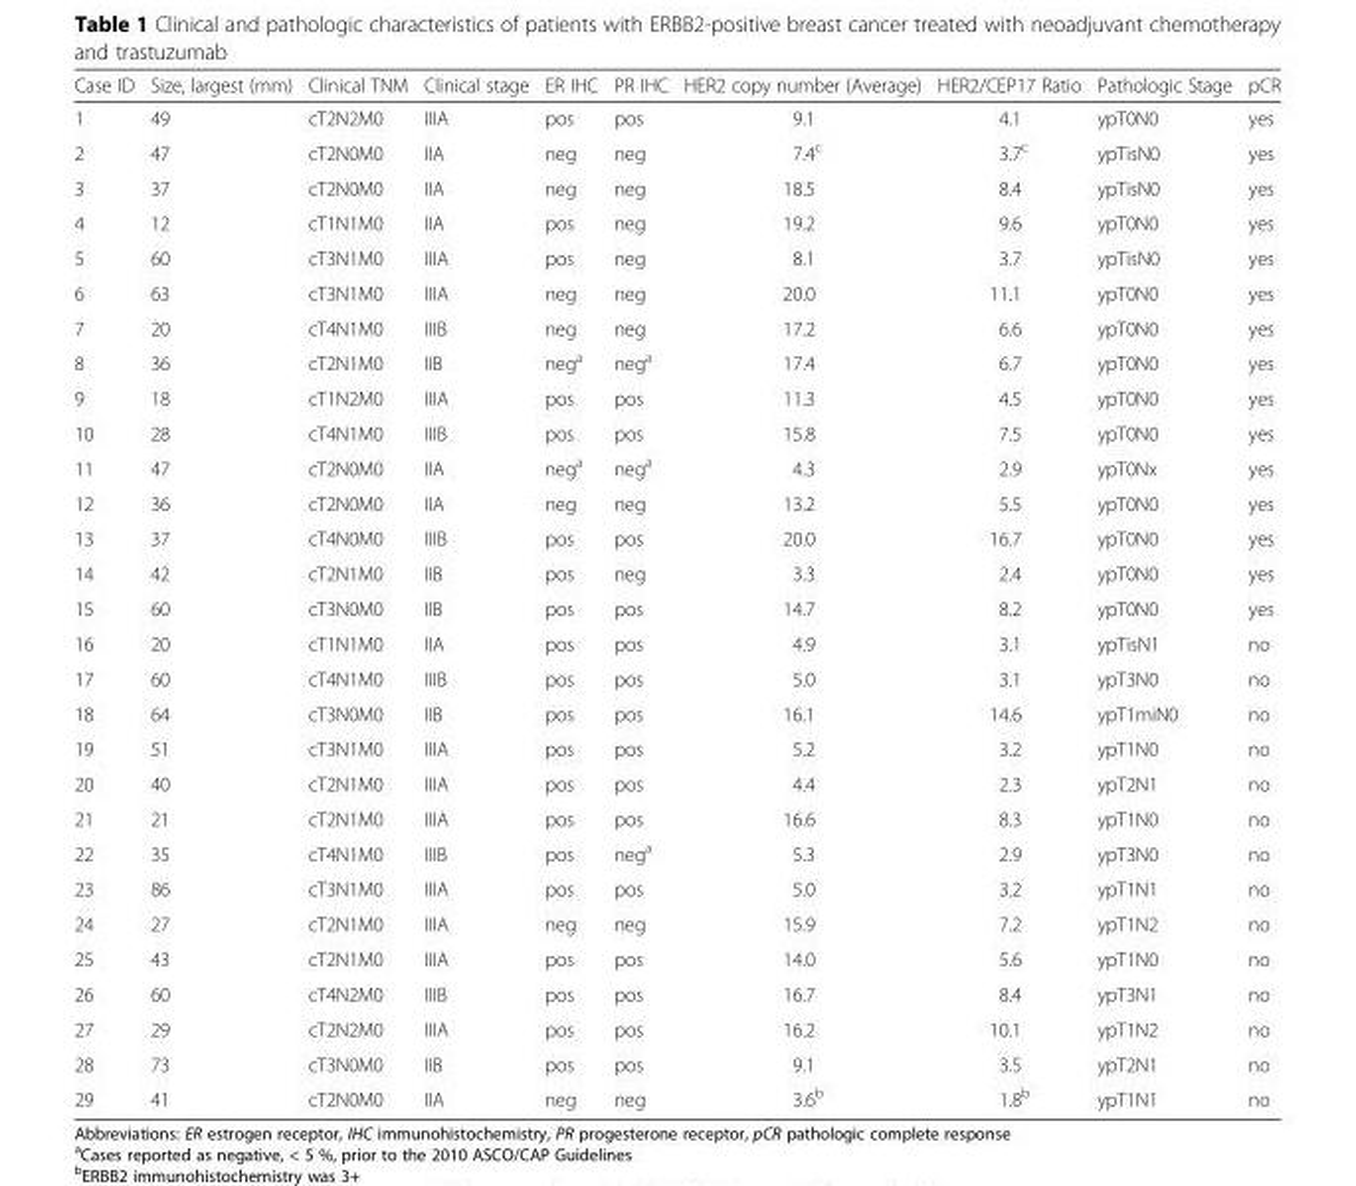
<table><thead><tr><td>Case ID</td><td>Size, largest (mm)</td><td>Clinical TNM</td><td>Clinical stage</td><td>ER IHC</td><td>PR IHC</td><td>HER2 copy number (Average)</td><td>HER2/CEP17 Ratio</td><td>Pathologic Stage</td><td>pCR</td></tr></thead><tbody><tr><td>1</td><td>49</td><td>cT2N2M0</td><td>IIIA</td><td>pos</td><td>pos</td><td>9.1</td><td>4.1</td><td>ypT0N0</td><td>yes</td></tr><tr><td>2</td><td>47</td><td>cT2N0M0</td><td>IIA</td><td>neg</td><td>neg</td><td>7.4<sup>c</sup></td><td>3.7<sup>c</sup></td><td>ypTisN0</td><td>yes</td></tr><tr><td>3</td><td>37</td><td>cT2N0M0</td><td>IIA</td><td>neg</td><td>neg</td><td>18.5</td><td>8.4</td><td>ypTisN0</td><td>yes</td></tr><tr><td>4</td><td>12</td><td>cT1N1M0</td><td>IIA</td><td>pos</td><td>neg</td><td>19.2</td><td>9.6</td><td>ypT0N0</td><td>yes</td></tr><tr><td>5</td><td>60</td><td>cT3N1M0</td><td>IIIA</td><td>pos</td><td>neg</td><td>8.1</td><td>3.7</td><td>ypTisN0</td><td>yes</td></tr><tr><td>6</td><td>63</td><td>cT3N1M0</td><td>IIIA</td><td>neg</td><td>neg</td><td>20.0</td><td>11.1</td><td>ypT0N0</td><td>yes</td></tr><tr><td>7</td><td>20</td><td>cT4N1M0</td><td>IIIB</td><td>neg</td><td>neg</td><td>17.2</td><td>6.6</td><td>ypT0N0</td><td>yes</td></tr><tr><td>8</td><td>36</td><td>cT2N1M0</td><td>IIB</td><td>neg<sup>a</sup></td><td>neg<sup>a</sup></td><td>17.4</td><td>6.7</td><td>ypT0N0</td><td>yes</td></tr><tr><td>9</td><td>18</td><td>cT1N2M0</td><td>IIIA</td><td>pos</td><td>pos</td><td>11.3</td><td>4.5</td><td>ypT0N0</td><td>yes</td></tr><tr><td>10</td><td>28</td><td>cT4N1M0</td><td>IIIB</td><td>pos</td><td>pos</td><td>15.8</td><td>7.5</td><td>ypT0N0</td><td>yes</td></tr><tr><td>11</td><td>47</td><td>cT2N0M0</td><td>IIA</td><td>neg<sup>a</sup></td><td>neg<sup>a</sup></td><td>4.3</td><td>2.9</td><td>ypT0Nx</td><td>yes</td></tr><tr><td>12</td><td>36</td><td>cT2N0M0</td><td>IIA</td><td>neg</td><td>neg</td><td>13.2</td><td>5.5</td><td>ypT0N0</td><td>yes</td></tr><tr><td>13</td><td>37</td><td>cT4N0M0</td><td>IIIB</td><td>pos</td><td>pos</td><td>20.0</td><td>16.7</td><td>ypT0N0</td><td>yes</td></tr><tr><td>14</td><td>42</td><td>cT2N1M0</td><td>IIB</td><td>pos</td><td>neg</td><td>3.3</td><td>2.4</td><td>ypT0N0</td><td>yes</td></tr><tr><td>15</td><td>60</td><td>cT3N0M0</td><td>IIB</td><td>pos</td><td>pos</td><td>14.7</td><td>8.2</td><td>ypT0N0</td><td>yes</td></tr><tr><td>16</td><td>20</td><td>cT1N1M0</td><td>IIA</td><td>pos</td><td>pos</td><td>4.9</td><td>3.1</td><td>ypTisN1</td><td>no</td></tr><tr><td>17</td><td>60</td><td>cT4N1M0</td><td>IIIB</td><td>pos</td><td>pos</td><td>5.0</td><td>3.1</td><td>ypT3N0</td><td>no</td></tr><tr><td>18</td><td>64</td><td>cT3N0M0</td><td>IIB</td><td>pos</td><td>pos</td><td>16.1</td><td>14.6</td><td>ypT1miN0</td><td>no</td></tr><tr><td>19</td><td>51</td><td>cT3N1M0</td><td>IIIA</td><td>pos</td><td>pos</td><td>5.2</td><td>3.2</td><td>ypT1N0</td><td>no</td></tr><tr><td>20</td><td>40</td><td>cT2N1M0</td><td>IIIA</td><td>pos</td><td>pos</td><td>4.4</td><td>2.3</td><td>ypT2N1</td><td>no</td></tr><tr><td>21</td><td>21</td><td>cT2N1M0</td><td>IIIA</td><td>pos</td><td>pos</td><td>16.6</td><td>8.3</td><td>ypT1N0</td><td>no</td></tr><tr><td>22</td><td>35</td><td>cT4N1M0</td><td>IIIB</td><td>pos</td><td>neg<sup>a</sup></td><td>5.3</td><td>2.9</td><td>ypT3N0</td><td>no</td></tr><tr><td>23</td><td>86</td><td>cT3N1M0</td><td>IIIA</td><td>pos</td><td>pos</td><td>5.0</td><td>3.2</td><td>ypT1N1</td><td>no</td></tr><tr><td>24</td><td>27</td><td>cT2N1M0</td><td>IIIA</td><td>neg</td><td>neg</td><td>15.9</td><td>7.2</td><td>ypT1N2</td><td>no</td></tr><tr><td>25</td><td>43</td><td>cT2N1M0</td><td>IIIA</td><td>pos</td><td>pos</td><td>14.0</td><td>5.6</td><td>ypT1N0</td><td>no</td></tr><tr><td>26</td><td>60</td><td>cT4N2M0</td><td>IIIB</td><td>pos</td><td>pos</td><td>16.7</td><td>8.4</td><td>ypT3N1</td><td>no</td></tr><tr><td>27</td><td>29</td><td>cT2N2M0</td><td>IIIA</td><td>pos</td><td>pos</td><td>16.2</td><td>10.1</td><td>ypT1N2</td><td>no</td></tr><tr><td>28</td><td>73</td><td>cT3N0M0</td><td>IIB</td><td>pos</td><td>pos</td><td>9.1</td><td>3.5</td><td>ypT2N1</td><td>no</td></tr><tr><td>29</td><td>41</td><td>cT2N0M0</td><td>IIA</td><td>neg</td><td>neg</td><td>3.6<sup>b</sup></td><td>1.8<sup>b</sup></td><td>ypT1N1</td><td>no</td></tr></tbody></table>